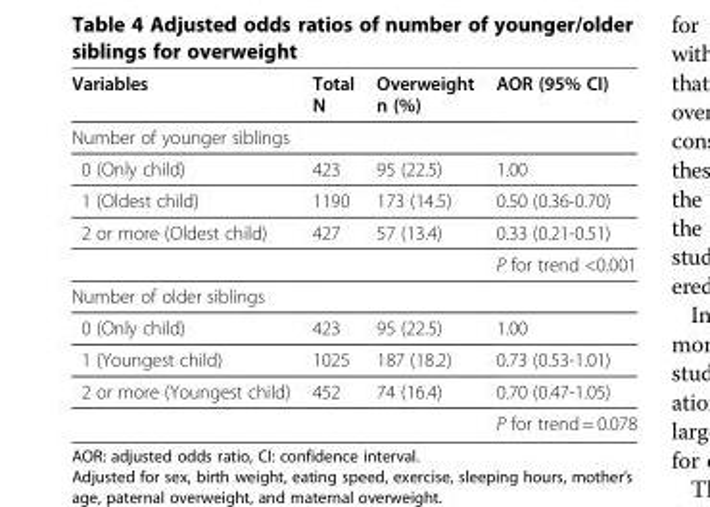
<table><thead><tr><td>Variables</td><td>Total N</td><td>Overweight n (%)</td><td>AOR (95% CI)</td></tr></thead><tbody><tr><td colspan="4">Number of younger siblings</td></tr><tr><td>0 (Only child)</td><td>423</td><td>95 (22.5)</td><td>1.00</td></tr><tr><td>1 (Oldest child)</td><td>1190</td><td>173 (14.5)</td><td>0.50 (0.36-0.70)</td></tr><tr><td rowspan="2">2 or more (Oldest child)</td><td>427</td><td>57 (13.4)</td><td>0.33 (0.21-0.51)</td></tr><tr><td></td><td></td><td>P for trend &lt;0.001</td></tr><tr><td colspan="4">Number of older siblings</td></tr><tr><td>0 (Only child)</td><td>423</td><td>95 (22.5)</td><td>1.00</td></tr><tr><td>1 (Youngest child)</td><td>1025</td><td>187 (18.2)</td><td>0.73 (0.53-1.01)</td></tr><tr><td rowspan="2">2 or more (Youngest child)</td><td>452</td><td>74 (16.4)</td><td>0.70 (0.47-1.05)</td></tr><tr><td></td><td></td><td>P for trend = 0.078</td></tr></tbody></table>